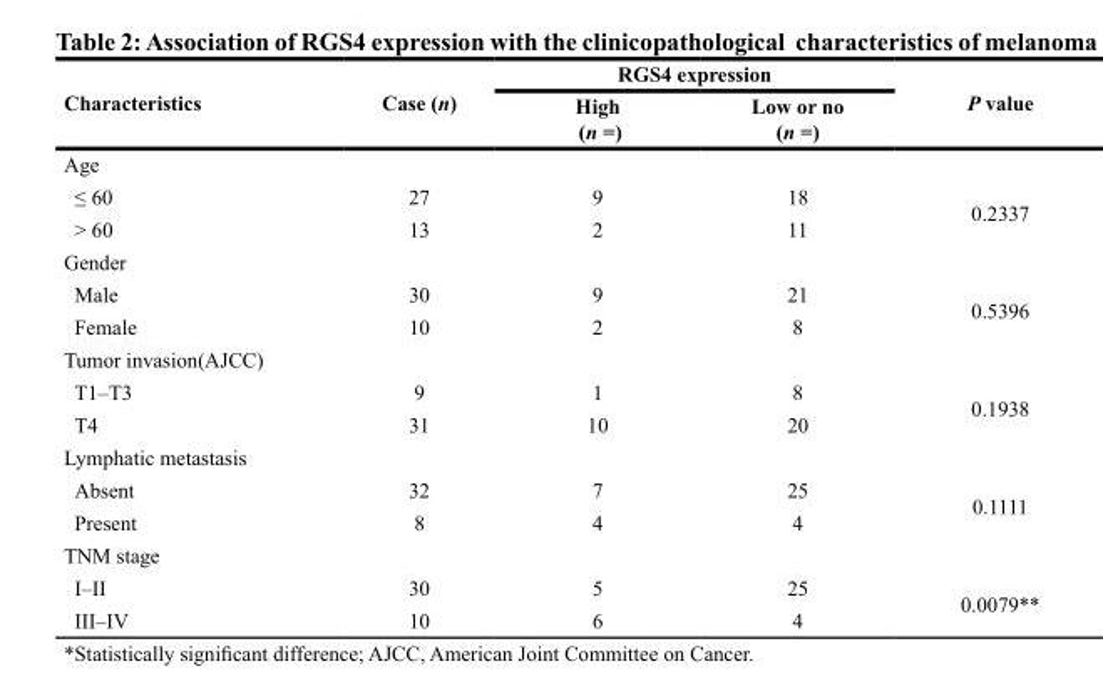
<table><thead><tr><td rowspan="2">Characteristics</td><td rowspan="2">Case (n)</td><td colspan="2">RGS4 expression</td><td rowspan="2">P value</td></tr><tr><td>High (n =)</td><td>Low or no (n =)</td></tr></thead><tbody><tr><td colspan="5">Age</td></tr><tr><td>≤ 60</td><td>27</td><td>9</td><td>18</td><td rowspan="2">0.2337</td></tr><tr><td>&gt; 60</td><td>13</td><td>2</td><td>11</td></tr><tr><td colspan="5">Gender</td></tr><tr><td>Male</td><td>30</td><td>9</td><td>21</td><td rowspan="2">0.5396</td></tr><tr><td>Female</td><td>10</td><td>2</td><td>8</td></tr><tr><td colspan="5">Tumor invasion(AJCC)</td></tr><tr><td>T1–T3</td><td>9</td><td>1</td><td>8</td><td rowspan="2">0.1938</td></tr><tr><td>T4</td><td>31</td><td>10</td><td>20</td></tr><tr><td colspan="5">Lymphatic metastasis</td></tr><tr><td>Absent</td><td>32</td><td>7</td><td>25</td><td rowspan="2">0.1111</td></tr><tr><td>Present</td><td>8</td><td>4</td><td>4</td></tr><tr><td colspan="5">TNM stage</td></tr><tr><td>I–II</td><td>30</td><td>5</td><td>25</td><td rowspan="2">0.0079**</td></tr><tr><td>III–IV</td><td>10</td><td>6</td><td>4</td></tr></tbody></table>